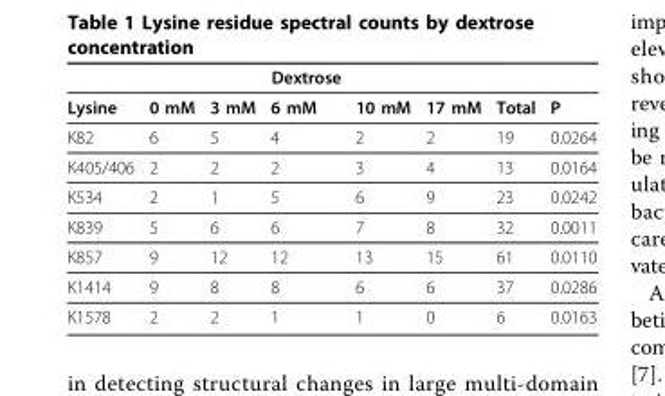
<table><thead><tr><td></td><td></td><td></td><td>Dextrose</td><td></td><td></td><td></td><td></td></tr></thead><tbody><tr><td>Lysine</td><td>0 mM</td><td>3 mM</td><td>6 mM</td><td>10 mM</td><td>17 mM</td><td>Total</td><td>P</td></tr><tr><td>K82</td><td>6</td><td>5</td><td>4</td><td>2</td><td>2</td><td>19</td><td>0.0264</td></tr><tr><td>K405/406</td><td>2</td><td>2</td><td>2</td><td>3</td><td>4</td><td>13</td><td>0.0164</td></tr><tr><td>K534</td><td>2</td><td>1</td><td>5</td><td>6</td><td>9</td><td>23</td><td>0.0242</td></tr><tr><td>K839</td><td>5</td><td>6</td><td>6</td><td>7</td><td>8</td><td>32</td><td>0.0011</td></tr><tr><td>K857</td><td>9</td><td>12</td><td>12</td><td>13</td><td>15</td><td>61</td><td>0.0110</td></tr><tr><td>K1414</td><td>9</td><td>8</td><td>8</td><td>6</td><td>6</td><td>37</td><td>0.0286</td></tr><tr><td>K1578</td><td>2</td><td>2</td><td>1</td><td>1</td><td>0</td><td>6</td><td>0.0163</td></tr></tbody></table>